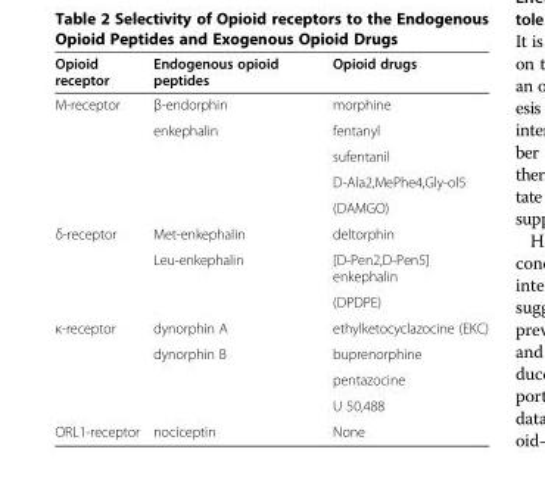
<table><thead><tr><td>Opioid receptor</td><td>Endogenous opioid peptides</td><td>Opioid drugs</td></tr></thead><tbody><tr><td rowspan="5">Μ-receptor</td><td>β-endorphin</td><td>morphine</td></tr><tr><td>enkephalin</td><td>fentanyl</td></tr><tr><td></td><td>sufentanil</td></tr><tr><td></td><td>D-Ala2,MePhe4,Gly-ol5</td></tr><tr><td></td><td>(DAMGO)</td></tr><tr><td rowspan="3">δ-receptor</td><td>Met-enkephalin</td><td>deltorphin</td></tr><tr><td>Leu-enkephalin</td><td>[D-Pen2,D-Pen5] enkephalin</td></tr><tr><td></td><td>(DPDPE)</td></tr><tr><td rowspan="4">κ-receptor</td><td>dynorphin A</td><td>ethylketocyclazocine (EKC)</td></tr><tr><td>dynorphin B</td><td>buprenorphine</td></tr><tr><td></td><td>pentazocine</td></tr><tr><td></td><td>U 50,488</td></tr><tr><td>ORL1-receptor</td><td>nociceptin</td><td>None</td></tr></tbody></table>